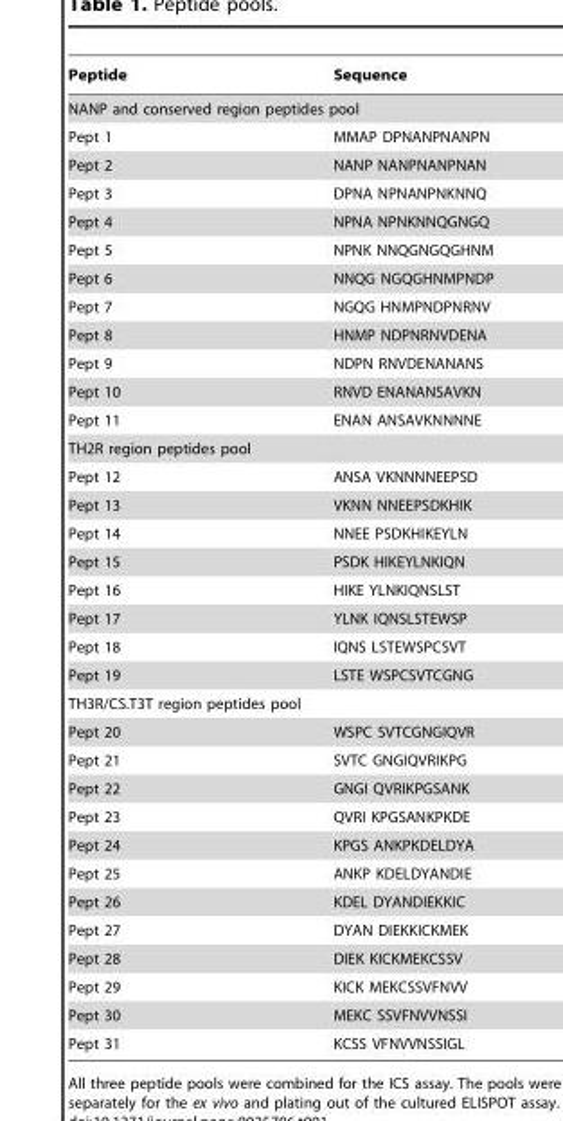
<table><thead><tr><td>Peptide</td><td>Sequence</td></tr></thead><tbody><tr><td colspan="2">NANP and conserved region peptides pool</td></tr><tr><td>Pept 1</td><td>MMAP DPNANPNANPN</td></tr><tr><td>Pept 2</td><td>NANP NANPNANPNAN</td></tr><tr><td>Pept 3</td><td>DPNA NPNANPNKNNQ</td></tr><tr><td>Pept 4</td><td>NPNA NPNKNNQGNGQ</td></tr><tr><td>Pept 5</td><td>NPNK NNQGNGQGHNM</td></tr><tr><td>Pept 6</td><td>NNQG NGQGHNMPNDP</td></tr><tr><td>Pept 7</td><td>NGQG HNMPNDPNRNV</td></tr><tr><td>Pept 8</td><td>HNMP NDPNRNVDENA</td></tr><tr><td>Pept 9</td><td>NDPN RNVDENANANS</td></tr><tr><td>Pept 10</td><td>RNVD ENANANSAVKN</td></tr><tr><td>Pept 11</td><td>ENAN ANSAVKNNNNE</td></tr><tr><td colspan="2">TH2R region peptides pool</td></tr><tr><td>Pept 12</td><td>ANSA VKNNNNEEPSD</td></tr><tr><td>Pept 13</td><td>VKNN NNEEPSDKHIK</td></tr><tr><td>Pept 14</td><td>NNEE PSDKHIKEYLN</td></tr><tr><td>Pept 15</td><td>PSDK HIKEYLNKIQN</td></tr><tr><td>Pept 16</td><td>HIKE YLNKIQNSLST</td></tr><tr><td>Pept 17</td><td>YLNK IQNSLSTEWSP</td></tr><tr><td>Pept 18</td><td>IQNS LSTEWSPCSVT</td></tr><tr><td>Pept 19</td><td>LSTE WSPCSVTCGNG</td></tr><tr><td colspan="2">TH3R/CS.T3T region peptides pool</td></tr><tr><td>Pept 20</td><td>WSPC SVTCGNGIQVR</td></tr><tr><td>Pept 21</td><td>SVTC GNGIQVRIKPG</td></tr><tr><td>Pept 22</td><td>GNGI QVRIKPGSANK</td></tr><tr><td>Pept 23</td><td>QVRI KPGSANKPKDE</td></tr><tr><td>Pept 24</td><td>KPGS ANKPKDELDYA</td></tr><tr><td>Pept 25</td><td>ANKP KDELDYANDIE</td></tr><tr><td>Pept 26</td><td>KDEL DYANDIEKKIC</td></tr><tr><td>Pept 27</td><td>DYAN DIEKKICKMEK</td></tr><tr><td>Pept 28</td><td>DIEK KICKMEKCSSV</td></tr><tr><td>Pept 29</td><td>KICK MEKCSSVFNVV</td></tr><tr><td>Pept 30</td><td>MEKC SSVFNVVNSSI</td></tr><tr><td>Pept 31</td><td>KCSS VFNVVNSSIGL</td></tr></tbody></table>